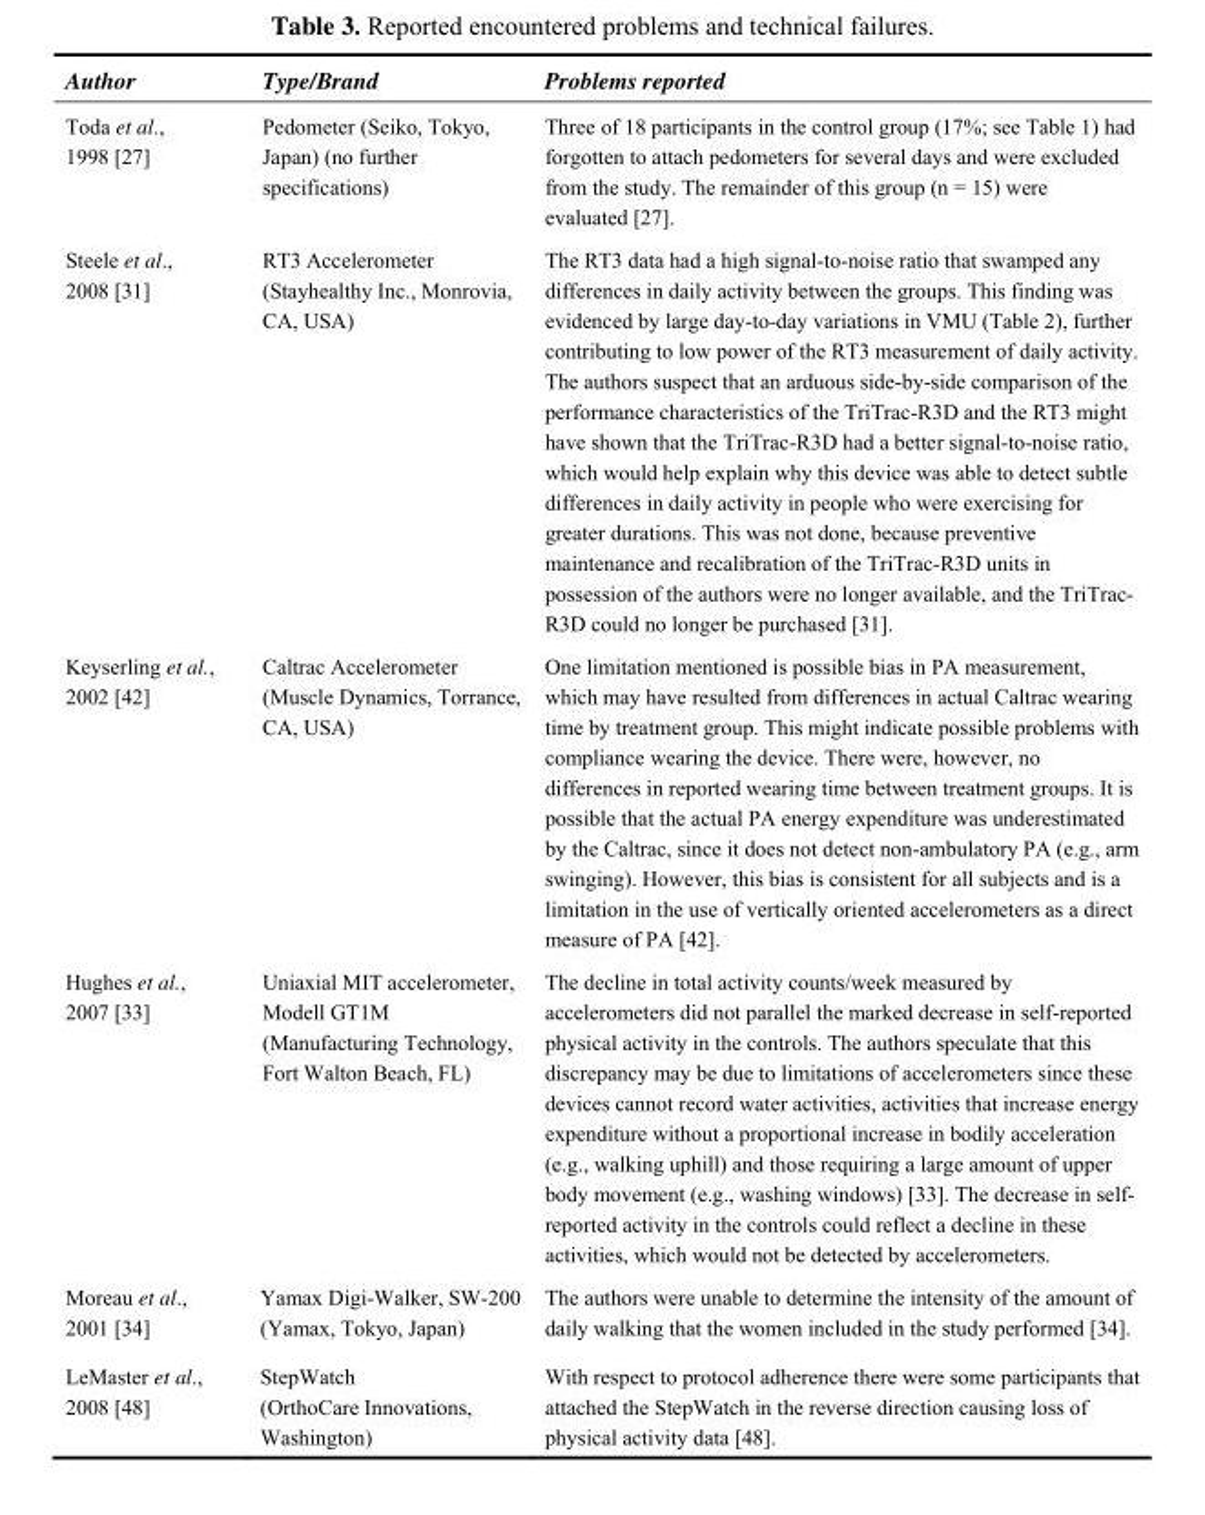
<table><thead><tr><td>Author</td><td>Type/Brand</td><td>Problems reported</td></tr></thead><tbody><tr><td>Toda et al., 1998 [27]</td><td>Pedometer (Seiko, Tokyo, Japan) (no further specifications)</td><td>Three of 18 participants in the control group (17%; see Table 1) had forgotten to attach pedometers for several days and were excluded from the study. The remainder of this group (n = 15) were evaluated [27].</td></tr><tr><td>Steele et al., 2008 [31]</td><td>RT3 Accelerometer (Stayhealthy Inc., Monrovia, CA, USA)</td><td>The RT3 data had a high signal-to-noise ratio that swamped any differences in daily activity between the groups. This finding was evidenced by large day-to-day variations in VMU (Table 2), further contributing to low power of the RT3 measurement of daily activity. The authors suspect that an arduous side-by-side comparison of the performance characteristics of the TriTrac-R3D and the RT3 might have shown that the TriTrac-R3D had a better signal-to-noise ratio, which would help explain why this device was able to detect subtle differences in daily activity in people who were exercising for greater durations. This was not done, because preventive maintenance and recalibration of the TriTrac-R3D units in possession of the authors were no longer available, and the TriTrac- R3D could no longer be purchased [31].</td></tr><tr><td>Keyserling et al., 2002 [42]</td><td>Caltrac Accelerometer (Muscle Dynamics, Torrance, CA, USA)</td><td>One limitation mentioned is possible bias in PA measurement, which may have resulted from differences in actual Caltrac wearing time by treatment group. This might indicate possible problems with compliance wearing the device. There were, however, no differences in reported wearing time between treatment groups. It is possible that the actual PA energy expenditure was underestimated by the Caltrac, since it does not detect non-ambulatory PA (e.g., arm swinging). However, this bias is consistent for all subjects and is a limitation in the use of vertically oriented accelerometers as a direct measure of PA [42].</td></tr><tr><td>Hughes et al., 2007 [33]</td><td>Uniaxial MIT accelerometer, Modell GT1M (Manufacturing Technology, Fort Walton Beach, FL)</td><td>The decline in total activity counts/week measured by accelerometers did not parallel the marked decrease in self-reported physical activity in the controls. The authors speculate that this discrepancy may be due to limitations of accelerometers since these devices cannot record water activities, activities that increase energy expenditure without a proportional increase in bodily acceleration (e.g., walking uphill) and those requiring a large amount of upper body movement (e.g., washing windows) [33]. The decrease in self- reported activity in the controls could reflect a decline in these activities, which would not be detected by accelerometers.</td></tr><tr><td>Moreau et al., 2001 [34]</td><td>Yamax Digi-Walker, SW-200 (Yamax, Tokyo, Japan)</td><td>The authors were unable to determine the intensity of the amount of daily walking that the women included in the study performed [34].</td></tr><tr><td>LeMaster et al., 2008 [48]</td><td>StepWatch (OrthoCare Innovations, Washington)</td><td>With respect to protocol adherence there were some participants that attached the StepWatch in the reverse direction causing loss of physical activity data [48].</td></tr></tbody></table>